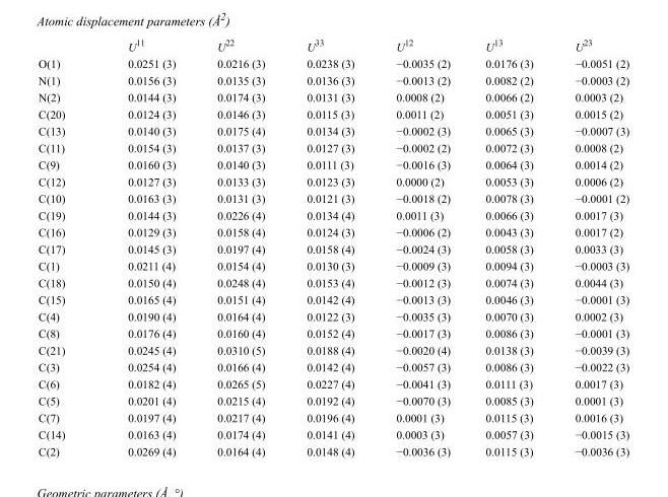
<table><thead><tr><td></td><td>U<sup>11</sup></td><td>U<sup>22</sup></td><td>U<sup>33</sup></td><td>U<sup>12</sup></td><td>U<sup>13</sup></td><td>U<sup>23</sup></td></tr></thead><tbody><tr><td>O(1)</td><td>0.0251 (3)</td><td>0.0216 (3)</td><td>0.0238 (3)</td><td>−0.0035 (2)</td><td>0.0176 (3)</td><td>−0.0051 (2)</td></tr><tr><td>N(1)</td><td>0.0156 (3)</td><td>0.0135 (3)</td><td>0.0136 (3)</td><td>−0.0013 (2)</td><td>0.0082 (2)</td><td>−0.0003 (2)</td></tr><tr><td>N(2)</td><td>0.0144 (3)</td><td>0.0174 (3)</td><td>0.0131 (3)</td><td>0.0008 (2)</td><td>0.0066 (2)</td><td>0.0003 (2)</td></tr><tr><td>C(20)</td><td>0.0124 (3)</td><td>0.0146 (3)</td><td>0.0115 (3)</td><td>0.0011 (2)</td><td>0.0051 (3)</td><td>0.0015 (2)</td></tr><tr><td>C(13)</td><td>0.0140 (3)</td><td>0.0175 (4)</td><td>0.0134 (3)</td><td>−0.0002 (3)</td><td>0.0065 (3)</td><td>−0.0007 (3)</td></tr><tr><td>C(11)</td><td>0.0154 (3)</td><td>0.0137 (3)</td><td>0.0127 (3)</td><td>−0.0002 (2)</td><td>0.0072 (3)</td><td>0.0008 (2)</td></tr><tr><td>C(9)</td><td>0.0160 (3)</td><td>0.0140 (3)</td><td>0.0111 (3)</td><td>−0.0016 (3)</td><td>0.0064 (3)</td><td>0.0014 (2)</td></tr><tr><td>C(12)</td><td>0.0127 (3)</td><td>0.0133 (3)</td><td>0.0123 (3)</td><td>0.0000 (2)</td><td>0.0053 (3)</td><td>0.0006 (2)</td></tr><tr><td>C(10)</td><td>0.0163 (3)</td><td>0.0131 (3)</td><td>0.0121 (3)</td><td>−0.0018 (2)</td><td>0.0078 (3)</td><td>−0.0001 (2)</td></tr><tr><td>C(19)</td><td>0.0144 (3)</td><td>0.0226 (4)</td><td>0.0134 (4)</td><td>0.0011 (3)</td><td>0.0066 (3)</td><td>0.0017 (3)</td></tr><tr><td>C(16)</td><td>0.0129 (3)</td><td>0.0158 (4)</td><td>0.0124 (3)</td><td>−0.0006 (2)</td><td>0.0043 (3)</td><td>0.0017 (2)</td></tr><tr><td>C(17)</td><td>0.0145 (3)</td><td>0.0197 (4)</td><td>0.0158 (4)</td><td>−0.0024 (3)</td><td>0.0058 (3)</td><td>0.0033 (3)</td></tr><tr><td>C(1)</td><td>0.0211 (4)</td><td>0.0154 (4)</td><td>0.0130 (3)</td><td>−0.0009 (3)</td><td>0.0094 (3)</td><td>−0.0003 (3)</td></tr><tr><td>C(18)</td><td>0.0150 (4)</td><td>0.0248 (4)</td><td>0.0153 (4)</td><td>−0.0012 (3)</td><td>0.0074 (3)</td><td>0.0044 (3)</td></tr><tr><td>C(15)</td><td>0.0165 (4)</td><td>0.0151 (4)</td><td>0.0142 (4)</td><td>−0.0013 (3)</td><td>0.0046 (3)</td><td>−0.0001 (3)</td></tr><tr><td>C(4)</td><td>0.0190 (4)</td><td>0.0164 (4)</td><td>0.0122 (3)</td><td>−0.0035 (3)</td><td>0.0070 (3)</td><td>0.0002 (3)</td></tr><tr><td>C(8)</td><td>0.0176 (4)</td><td>0.0160 (4)</td><td>0.0152 (4)</td><td>−0.0017 (3)</td><td>0.0086 (3)</td><td>−0.0001 (3)</td></tr><tr><td>C(21)</td><td>0.0245 (4)</td><td>0.0310 (5)</td><td>0.0188 (4)</td><td>−0.0020 (4)</td><td>0.0138 (3)</td><td>−0.0039 (3)</td></tr><tr><td>C(3)</td><td>0.0254 (4)</td><td>0.0166 (4)</td><td>0.0142 (4)</td><td>−0.0057 (3)</td><td>0.0086 (3)</td><td>−0.0022 (3)</td></tr><tr><td>C(6)</td><td>0.0182 (4)</td><td>0.0265 (5)</td><td>0.0227 (4)</td><td>−0.0041 (3)</td><td>0.0111 (3)</td><td>0.0017 (3)</td></tr><tr><td>C(5)</td><td>0.0201 (4)</td><td>0.0215 (4)</td><td>0.0192 (4)</td><td>−0.0070 (3)</td><td>0.0085 (3)</td><td>0.0001 (3)</td></tr><tr><td>C(7)</td><td>0.0197 (4)</td><td>0.0217 (4)</td><td>0.0196 (4)</td><td>0.0001 (3)</td><td>0.0115 (3)</td><td>0.0016 (3)</td></tr><tr><td>C(14)</td><td>0.0163 (4)</td><td>0.0174 (4)</td><td>0.0141 (4)</td><td>0.0003 (3)</td><td>0.0057 (3)</td><td>−0.0015 (3)</td></tr><tr><td>C(2)</td><td>0.0269 (4)</td><td>0.0164 (4)</td><td>0.0148 (4)</td><td>−0.0036 (3)</td><td>0.0115 (3)</td><td>−0.0036 (3)</td></tr></tbody></table>